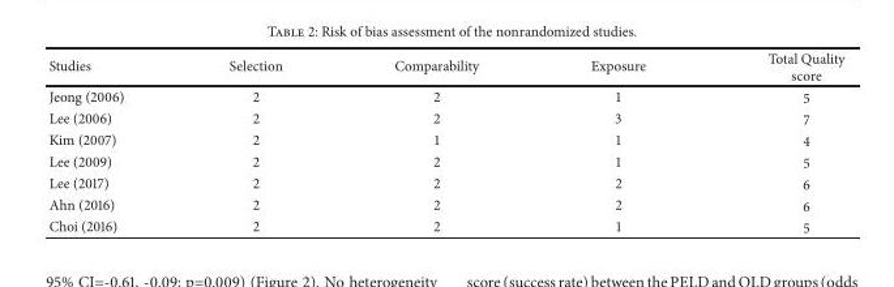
<table><thead><tr><td>Studies</td><td>Selection</td><td>Comparability</td><td>Exposure</td><td>Total Quality score</td></tr></thead><tbody><tr><td>Jeong (2006)</td><td>2</td><td>2</td><td>1</td><td>5</td></tr><tr><td>Lee (2006)</td><td>2</td><td>2</td><td>3</td><td>7</td></tr><tr><td>Kim (2007)</td><td>2</td><td>1</td><td>1</td><td>4</td></tr><tr><td>Lee (2009)</td><td>2</td><td>2</td><td>1</td><td>5</td></tr><tr><td>Lee (2017)</td><td>2</td><td>2</td><td>2</td><td>6</td></tr><tr><td>Ahn (2016)</td><td>2</td><td>2</td><td>2</td><td>6</td></tr><tr><td>Choi (2016)</td><td>2</td><td>2</td><td>1</td><td>5</td></tr></tbody></table>